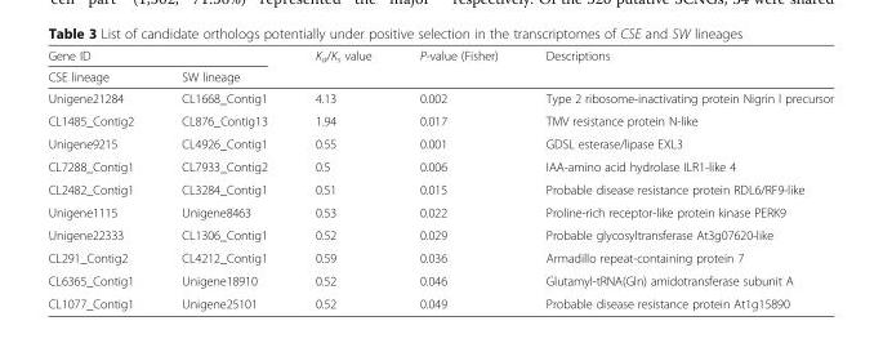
<table><thead><tr><td colspan="2">Gene ID</td><td rowspan="2">K<sub>a</sub>/K<sub>s</sub> value</td><td rowspan="2">P-value (Fisher)</td><td rowspan="2">Descriptions</td></tr><tr><td>CSE lineage</td><td>SW lineage</td></tr></thead><tbody><tr><td>Unigene21284</td><td>CL1668_Contig1</td><td>4.13</td><td>0.002</td><td>Type 2 ribosome-inactivating protein Nigrin l precursor</td></tr><tr><td>CL1485_Contig2</td><td>CL876_Contig13</td><td>1.94</td><td>0.017</td><td>TMV resistance protein N-like</td></tr><tr><td>Unigene9215</td><td>CL4926_Contig1</td><td>0.55</td><td>0.001</td><td>GDSL esterase/lipase EXL3</td></tr><tr><td>CL7288_Contig1</td><td>CL7933_Contig2</td><td>0.5</td><td>0.006</td><td>IAA-amino acid hydrolase ILR1-like 4</td></tr><tr><td>CL2482_Contig1</td><td>CL3284_Contig1</td><td>0.51</td><td>0.015</td><td>Probable disease resistance protein RDL6/RF9-like</td></tr><tr><td>Unigene1115</td><td>Unigene8463</td><td>0.53</td><td>0.022</td><td>Proline-rich receptor-like protein kinase PERK9</td></tr><tr><td>Unigene22333</td><td>CL1306_Contig1</td><td>0.52</td><td>0.029</td><td>Probable glycosyltransferase At3g07620-like</td></tr><tr><td>CL291_Contig2</td><td>CL4212_Contig1</td><td>0.59</td><td>0.036</td><td>Armadillo repeat-containing protein 7</td></tr><tr><td>CL6365_Contig1</td><td>Unigene18910</td><td>0.52</td><td>0.046</td><td>Glutamyl-tRNA(Gln) amidotransferase subunit A</td></tr><tr><td>CL1077_Contig1</td><td>Unigene25101</td><td>0.52</td><td>0.049</td><td>Probable disease resistance protein At1g15890</td></tr></tbody></table>